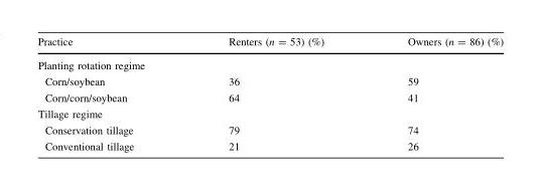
<table><thead><tr><td>Practice</td><td>Renters (n = 53) (%)</td><td>Owners (n = 86) (%)</td></tr></thead><tbody><tr><td colspan="3">Planting rotation regime</td></tr><tr><td>Corn/soybean</td><td>36</td><td>59</td></tr><tr><td>Corn/corn/soybean</td><td>64</td><td>41</td></tr><tr><td colspan="3">Tillage regime</td></tr><tr><td>Conservation tillage</td><td>79</td><td>74</td></tr><tr><td>Conventional tillage</td><td>21</td><td>26</td></tr></tbody></table>